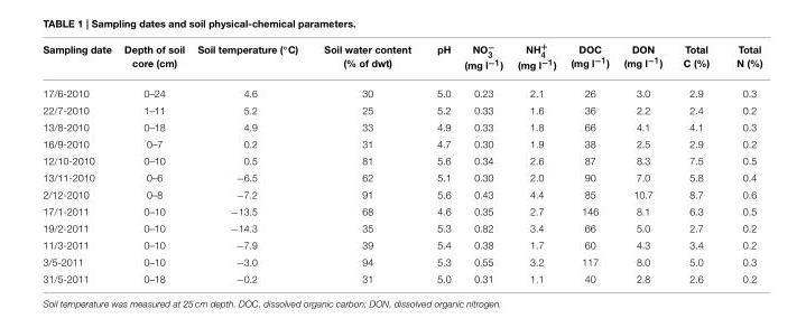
<table><thead><tr><td>Sampling date</td><td>Depth of soil core (cm)</td><td>Soil temperature (◦C)</td><td>Soil water content (% of dwt)</td><td>pH</td><td>NO<sup>−</sup> <sub>3</sub> (mg l<sup>−1</sup>)</td><td>NH<sup>+</sup> <sub>4</sub> (mg l<sup>−1</sup>)</td><td>DOC (mg l<sup>−1</sup>)</td><td>DON (mg l<sup>−1</sup>)</td><td>Total C (%)</td><td>Total N (%)</td></tr></thead><tbody><tr><td>17/6-2010</td><td>0–24</td><td>4.6</td><td>30</td><td>5.0</td><td>0.23</td><td>2.1</td><td>26</td><td>3.0</td><td>2.9</td><td>0.3</td></tr><tr><td>22/7-2010</td><td>1–11</td><td>5.2</td><td>25</td><td>5.2</td><td>0.33</td><td>1.6</td><td>36</td><td>2.2</td><td>2.4</td><td>0.2</td></tr><tr><td>13/8-2010</td><td>0–18</td><td>4.9</td><td>33</td><td>4.9</td><td>0.33</td><td>1.8</td><td>66</td><td>4.1</td><td>4.1</td><td>0.3</td></tr><tr><td>16/9-2010</td><td>0–7</td><td>0.2</td><td>31</td><td>4.7</td><td>0.30</td><td>1.9</td><td>38</td><td>2.5</td><td>2.9</td><td>0.2</td></tr><tr><td>12/10-2010</td><td>0–10</td><td>0.5</td><td>81</td><td>5.6</td><td>0.34</td><td>2.6</td><td>87</td><td>8.3</td><td>7.5</td><td>0.5</td></tr><tr><td>13/11-2010</td><td>0–6</td><td>−6.5</td><td>62</td><td>5.1</td><td>0.30</td><td>2.0</td><td>90</td><td>7.0</td><td>5.8</td><td>0.4</td></tr><tr><td>2/12-2010</td><td>0–8</td><td>−7.2</td><td>91</td><td>5.6</td><td>0.43</td><td>4.4</td><td>85</td><td>10.7</td><td>8.7</td><td>0.6</td></tr><tr><td>17/1-2011</td><td>0–10</td><td>−13.5</td><td>68</td><td>4.6</td><td>0.35</td><td>2.7</td><td>146</td><td>8.1</td><td>6.3</td><td>0.5</td></tr><tr><td>19/2-2011</td><td>0–10</td><td>−14.3</td><td>35</td><td>5.3</td><td>0.82</td><td>3.4</td><td>66</td><td>5.0</td><td>2.7</td><td>0.2</td></tr><tr><td>11/3-2011</td><td>0–10</td><td>−7.9</td><td>39</td><td>5.4</td><td>0.38</td><td>1.7</td><td>60</td><td>4.3</td><td>3.4</td><td>0.2</td></tr><tr><td>3/5-2011</td><td>0–10</td><td>−3.0</td><td>94</td><td>5.3</td><td>0.55</td><td>3.2</td><td>117</td><td>8.0</td><td>5.0</td><td>0.3</td></tr><tr><td>31/5-2011</td><td>0–18</td><td>−0.2</td><td>31</td><td>5.0</td><td>0.31</td><td>1.1</td><td>40</td><td>2.8</td><td>2.6</td><td>0.2</td></tr></tbody></table>